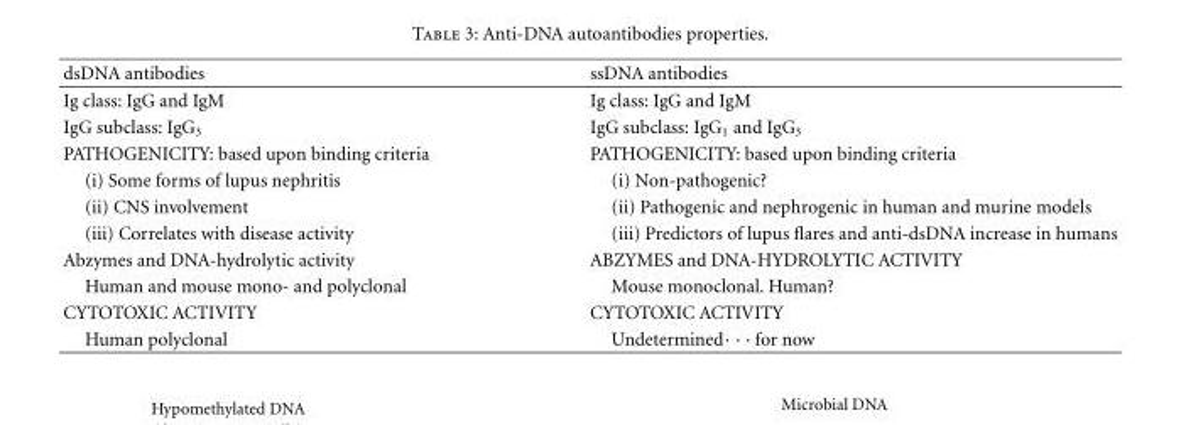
<table><thead><tr><td>dsDNA antibodies</td><td>ssDNA antibodies</td></tr></thead><tbody><tr><td>Ig class: IgG and IgM</td><td>Ig class: IgG and IgM</td></tr><tr><td>IgG subclass: IgG<sub>3</sub></td><td>IgG subclass: IgG<sub>1</sub> and IgG<sub>3</sub></td></tr><tr><td>PATHOGENICITY: based upon binding criteria</td><td>PATHOGENICITY: based upon binding criteria</td></tr><tr><td>(i) Some forms of lupus nephritis</td><td>(i) Non-pathogenic?</td></tr><tr><td>(ii) CNS involvement</td><td>(ii) Pathogenic and nephrogenic in human and murine models</td></tr><tr><td>(iii) Correlates with disease activity</td><td>(iii) Predictors of lupus flares and anti-dsDNA increase in humans</td></tr><tr><td>Abzymes and DNA-hydrolytic activity</td><td>ABZYMES and DNA-HYDROLYTIC ACTIVITY</td></tr><tr><td>Human and mouse mono- and polyclonal</td><td>Mouse monoclonal. Human?</td></tr><tr><td>CYTOTOXIC ACTIVITY</td><td>CYTOTOXIC ACTIVITY</td></tr><tr><td>Human polyclonal</td><td>Undetermined· · · for now</td></tr></tbody></table>